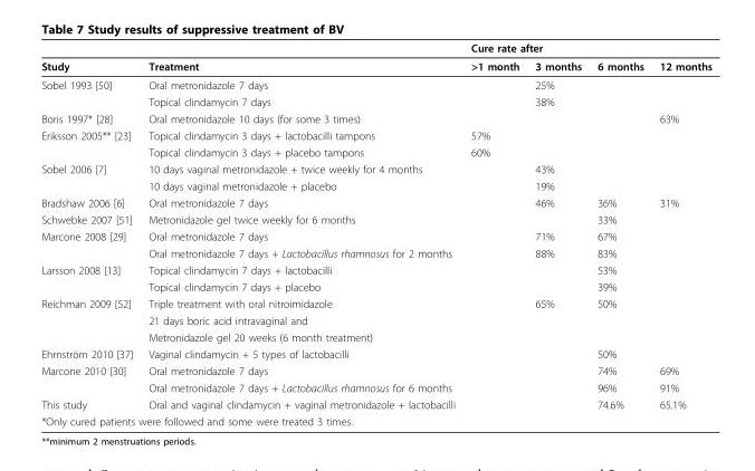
<table><thead><tr><td rowspan="2">Study</td><td rowspan="2">Treatment</td><td colspan="4">Cure rate after</td></tr><tr><td>&gt;1 month</td><td>3 months</td><td>6 months</td><td>12 months</td></tr></thead><tbody><tr><td rowspan="2">Sobel 1993 [50]</td><td>Oral metronidazole 7 days</td><td></td><td>25%</td><td></td><td></td></tr><tr><td>Topical clindamycin 7 days</td><td></td><td>38%</td><td></td><td></td></tr><tr><td>Boris 1997* [28]</td><td>Oral metronidazole 10 days (for some 3 times)</td><td></td><td></td><td></td><td>63%</td></tr><tr><td rowspan="2">Eriksson 2005** [23]</td><td>Topical clindamycin 3 days + lactobacilli tampons</td><td>57%</td><td></td><td></td><td></td></tr><tr><td>Topical clindamycin 3 days + placebo tampons</td><td>60%</td><td></td><td></td><td></td></tr><tr><td rowspan="2">Sobel 2006 [7]</td><td>10 days vaginal metronidazole + twice weekly for 4 months</td><td></td><td>43%</td><td></td><td></td></tr><tr><td>10 days vaginal metronidazole + placebo</td><td></td><td>19%</td><td></td><td></td></tr><tr><td>Bradshaw 2006 [6]</td><td>Oral metronidazole 7 days</td><td></td><td>46%</td><td>36%</td><td>31%</td></tr><tr><td>Schwebke 2007 [51]</td><td>Metronidazole gel twice weekly for 6 months</td><td></td><td></td><td>33%</td><td></td></tr><tr><td rowspan="2">Marcone 2008 [29]</td><td>Oral metronidazole 7 days</td><td></td><td>71%</td><td>67%</td><td></td></tr><tr><td>Oral metronidazole 7 days + Lactobacillus rhamnosus for 2 months</td><td></td><td>88%</td><td>83%</td><td></td></tr><tr><td rowspan="2">Larsson 2008 [13]</td><td>Topical clindamycin 7 days + lactobacilli</td><td></td><td></td><td>53%</td><td></td></tr><tr><td>Topical clindamycin 7 days + placebo</td><td></td><td></td><td>39%</td><td></td></tr><tr><td rowspan="3">Reichman 2009 [52]</td><td>Triple treatment with oral nitroimidazole</td><td></td><td>65%</td><td>50%</td><td></td></tr><tr><td>21 days boric acid intravaginal and</td><td></td><td></td><td></td><td></td></tr><tr><td>Metronidazole gel 20 weeks (6 month treatment)</td><td></td><td></td><td></td><td></td></tr><tr><td>Ehrnström 2010 [37]</td><td>Vaginal clindamycin + 5 types of lactobacilli</td><td></td><td></td><td>50%</td><td></td></tr><tr><td rowspan="2">Marcone 2010 [30]</td><td>Oral metronidazole 7 days</td><td></td><td></td><td>74%</td><td>69%</td></tr><tr><td>Oral metronidazole 7 days + Lactobacillus rhamnosus for 6 months</td><td></td><td></td><td>96%</td><td>91%</td></tr><tr><td>This study</td><td>Oral and vaginal clindamycin + vaginal metronidazole + lactobacilli</td><td></td><td></td><td>74.6%</td><td>65.1%</td></tr><tr><td colspan="2">*Only cured patients were followed and some were treated 3 times.</td><td></td><td></td><td></td><td></td></tr></tbody></table>